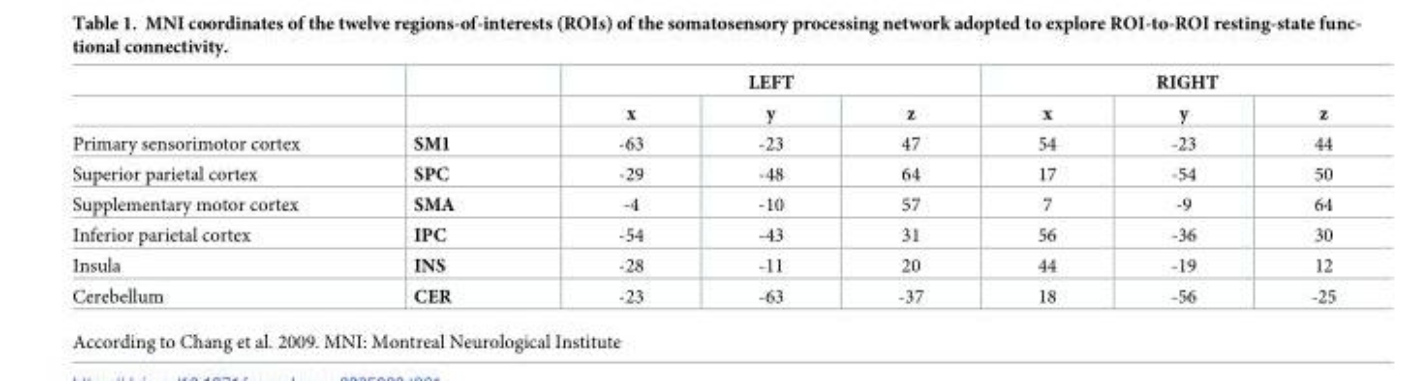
<table><thead><tr><td rowspan="2"></td><td rowspan="2"></td><td colspan="3">LEFT</td><td colspan="3">RIGHT</td></tr><tr><td>x</td><td>y</td><td>z</td><td>x</td><td>y</td><td>z</td></tr></thead><tbody><tr><td>Primary sensorimotor cortex</td><td>SM1</td><td>-63</td><td>-23</td><td>47</td><td>54</td><td>-23</td><td>44</td></tr><tr><td>Superior parietal cortex</td><td>SPC</td><td>-29</td><td>-48</td><td>64</td><td>17</td><td>-54</td><td>50</td></tr><tr><td>Supplementary motor cortex</td><td>SMA</td><td>-4</td><td>-10</td><td>57</td><td>7</td><td>-9</td><td>64</td></tr><tr><td>Inferior parietal cortex</td><td>IPC</td><td>-54</td><td>-43</td><td>31</td><td>56</td><td>-36</td><td>30</td></tr><tr><td>Insula</td><td>INS</td><td>-28</td><td>-11</td><td>20</td><td>44</td><td>-19</td><td>12</td></tr><tr><td>Cerebellum</td><td>CER</td><td>-23</td><td>-63</td><td>-37</td><td>18</td><td>-56</td><td>-25</td></tr></tbody></table>